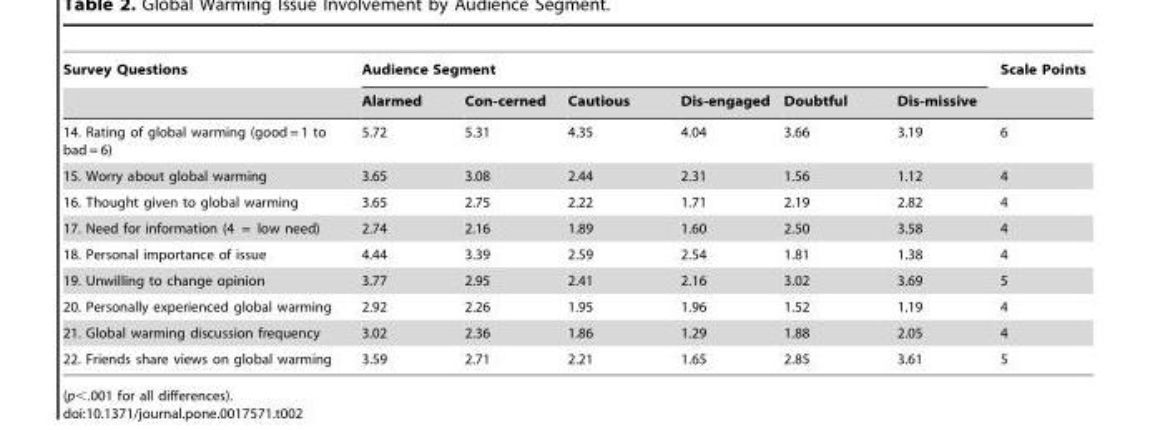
<table><thead><tr><td rowspan="2">Survey Questions</td><td colspan="6">Audience Segment</td><td rowspan="2">Scale Points</td></tr><tr><td>Alarmed</td><td>Con-cerned</td><td>Cautious</td><td>Dis-engaged</td><td>Doubtful</td><td>Dis-missive</td></tr></thead><tbody><tr><td>14. Rating of global warming (good = 1 to bad = 6)</td><td>5.72</td><td>5.31</td><td>4.35</td><td>4.04</td><td>3.66</td><td>3.19</td><td>6</td></tr><tr><td>15. Worry about global warming</td><td>3.65</td><td>3.08</td><td>2.44</td><td>2.31</td><td>1.56</td><td>1.12</td><td>4</td></tr><tr><td>16. Thought given to global warming</td><td>3.65</td><td>2.75</td><td>2.22</td><td>1.71</td><td>2.19</td><td>2.82</td><td>4</td></tr><tr><td>17. Need for information (4 = low need)</td><td>2.74</td><td>2.16</td><td>1.89</td><td>1.60</td><td>2.50</td><td>3.58</td><td>4</td></tr><tr><td>18. Personal importance of issue</td><td>4.44</td><td>3.39</td><td>2.59</td><td>2.54</td><td>1.81</td><td>1.38</td><td>4</td></tr><tr><td>19. Unwilling to change opinion</td><td>3.77</td><td>2.95</td><td>2.41</td><td>2.16</td><td>3.02</td><td>3.69</td><td>5</td></tr><tr><td>20. Personally experienced global warming</td><td>2.92</td><td>2.26</td><td>1.95</td><td>1.96</td><td>1.52</td><td>1.19</td><td>4</td></tr><tr><td>21. Global warming discussion frequency</td><td>3.02</td><td>2.36</td><td>1.86</td><td>1.29</td><td>1.88</td><td>2.05</td><td>4</td></tr><tr><td>22. Friends share views on global warming</td><td>3.59</td><td>2.71</td><td>2.21</td><td>1.65</td><td>2.85</td><td>3.61</td><td>5</td></tr></tbody></table>